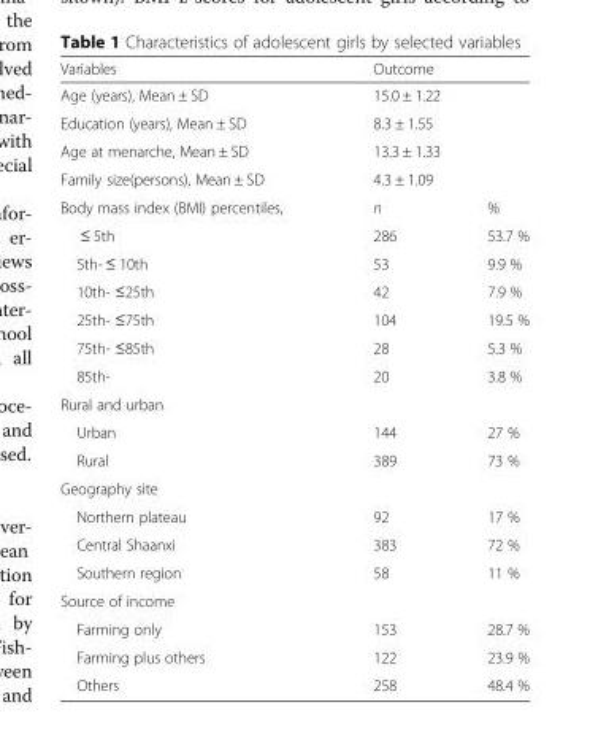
<table><thead><tr><td>Variables</td><td colspan="2">Outcome</td></tr></thead><tbody><tr><td>Age (years), Mean ± SD</td><td colspan="2">15.0 ± 1.22</td></tr><tr><td>Education (years), Mean ± SD</td><td colspan="2">8.3 ± 1.55</td></tr><tr><td>Age at menarche, Mean ± SD</td><td colspan="2">13.3 ± 1.33</td></tr><tr><td>Family size(persons), Mean ± SD</td><td colspan="2">4.3 ± 1.09</td></tr><tr><td>Body mass index (BMI) percentiles,</td><td>n</td><td>%</td></tr><tr><td>≤ 5th</td><td>286</td><td>53.7 %</td></tr><tr><td>5th- ≤ 10th</td><td>53</td><td>9.9 %</td></tr><tr><td>10th- ≤25th</td><td>42</td><td>7.9 %</td></tr><tr><td>25th- ≤75th</td><td>104</td><td>19.5 %</td></tr><tr><td>75th- ≤85th</td><td>28</td><td>5.3 %</td></tr><tr><td>85th-</td><td>20</td><td>3.8 %</td></tr><tr><td colspan="3">Rural and urban</td></tr><tr><td>Urban</td><td>144</td><td>27 %</td></tr><tr><td>Rural</td><td>389</td><td>73 %</td></tr><tr><td colspan="3">Geography site</td></tr><tr><td>Northern plateau</td><td>92</td><td>17 %</td></tr><tr><td>Central Shaanxi</td><td>383</td><td>72 %</td></tr><tr><td>Southern region</td><td>58</td><td>11 %</td></tr><tr><td colspan="3">Source of income</td></tr><tr><td>Farming only</td><td>153</td><td>28.7 %</td></tr><tr><td>Farming plus others</td><td>122</td><td>23.9 %</td></tr><tr><td>Others</td><td>258</td><td>48.4 %</td></tr></tbody></table>